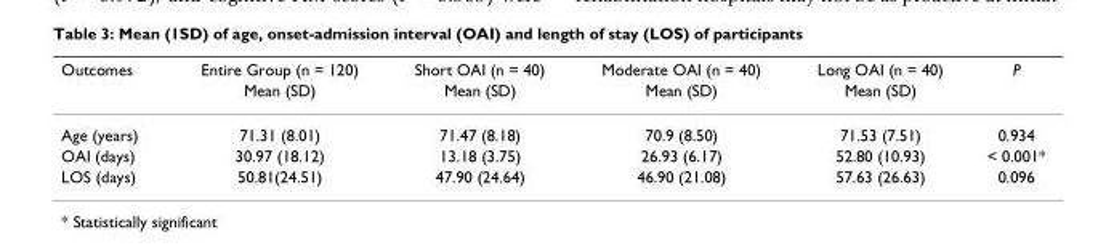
<table><thead><tr><td rowspan="2">Outcomes</td><td rowspan="2">Entire Group (n = 120) Mean (SD)</td><td rowspan="2">Short OAI (n = 40) Mean (SD)</td><td rowspan="2">Moderate OAI (n = 40) Mean (SD)</td><td rowspan="2">Long OAI (n = 40) Mean (SD)</td><td rowspan="2">P</td></tr><tr></tr></thead><tbody><tr><td>Age (years)</td><td>71.31 (8.01)</td><td>71.47 (8.18)</td><td>70.9 (8.50)</td><td>71.53 (7.51)</td><td>0.934</td></tr><tr><td>OAI (days)</td><td>30.97 (18.12)</td><td>13.18 (3.75)</td><td>26.93 (6.17)</td><td>52.80 (10.93)</td><td>&lt; 0.001*</td></tr><tr><td>LOS (days)</td><td>50.81(24.51)</td><td>47.90 (24.64)</td><td>46.90 (21.08)</td><td>57.63 (26.63)</td><td>0.096</td></tr></tbody></table>